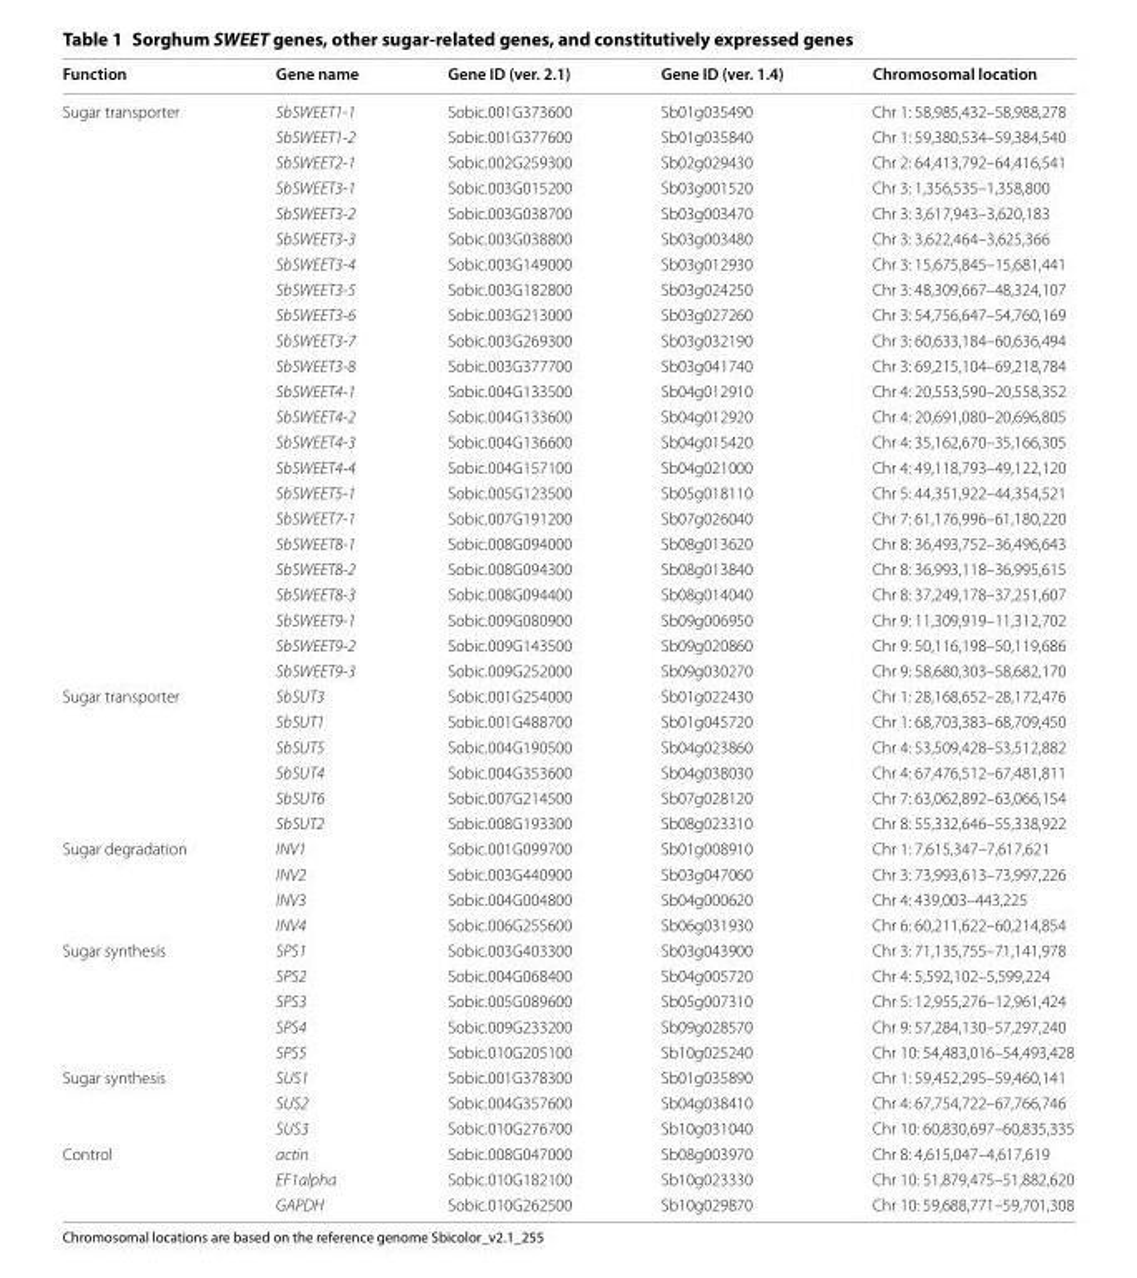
<table><thead><tr><td>Function</td><td>Gene name</td><td>Gene ID (ver. 2.1)</td><td>Gene ID (ver. 1.4)</td><td>Chromosomal location</td></tr></thead><tbody><tr><td rowspan="23">Sugar transporter</td><td>SbSWEET1-1</td><td>Sobic.001G373600</td><td>Sb01g035490</td><td>Chr 1: 58,985,432–58,988,278</td></tr><tr><td>SbSWEET1-2</td><td>Sobic.001G377600</td><td>Sb01g035840</td><td>Chr 1: 59,380,534–59,384,540</td></tr><tr><td>SbSWEET2-1</td><td>Sobic.002G259300</td><td>Sb02g029430</td><td>Chr 2: 64,413,792–64,416,541</td></tr><tr><td>SbSWEET3-1</td><td>Sobic.003G015200</td><td>Sb03g001520</td><td>Chr 3: 1,356,535–1,358,800</td></tr><tr><td>SbSWEET3-2</td><td>Sobic.003G038700</td><td>Sb03g003470</td><td>Chr 3: 3,617,943–3,620,183</td></tr><tr><td>SbSWEET3-3</td><td>Sobic.003G038800</td><td>Sb03g003480</td><td>Chr 3: 3,622,464–3,625,366</td></tr><tr><td>SbSWEET3-4</td><td>Sobic.003G149000</td><td>Sb03g012930</td><td>Chr 3: 15,675,845–15,681,441</td></tr><tr><td>SbSWEET3-5</td><td>Sobic.003G182800</td><td>Sb03g024250</td><td>Chr 3: 48,309,667–48,324,107</td></tr><tr><td>SbSWEET3-6</td><td>Sobic.003G213000</td><td>Sb03g027260</td><td>Chr 3: 54,756,647–54,760,169</td></tr><tr><td>SbSWEET3-7</td><td>Sobic.003G269300</td><td>Sb03g032190</td><td>Chr 3: 60,633,184–60,636,494</td></tr><tr><td>SbSWEET3-8</td><td>Sobic.003G377700</td><td>Sb03g041740</td><td>Chr 3: 69,215,104–69,218,784</td></tr><tr><td>SbSWEET4-1</td><td>Sobic.004G133500</td><td>Sb04g012910</td><td>Chr 4: 20,553,590–20,558,352</td></tr><tr><td>SbSWEET4-2</td><td>Sobic.004G133600</td><td>Sb04g012920</td><td>Chr 4: 20,691,080–20,696,805</td></tr><tr><td>SbSWEET4-3</td><td>Sobic.004G136600</td><td>Sb04g015420</td><td>Chr 4: 35,162,670–35,166,305</td></tr><tr><td>SbSWEET4-4</td><td>Sobic.004G157100</td><td>Sb04g021000</td><td>Chr 4: 49,118,793–49,122,120</td></tr><tr><td>SbSWEET5-1</td><td>Sobic.005G123500</td><td>Sb05g018110</td><td>Chr 5: 44,351,922–44,354,521</td></tr><tr><td>SbSWEET7-1</td><td>Sobic.007G191200</td><td>Sb07g026040</td><td>Chr 7: 61,176,996–61,180,220</td></tr><tr><td>SbSWEET8-1</td><td>Sobic.008G094000</td><td>Sb08g013620</td><td>Chr 8: 36,493,752–36,496,643</td></tr><tr><td>SbSWEET8-2</td><td>Sobic.008G094300</td><td>Sb08g013840</td><td>Chr 8: 36,993,118–36,995,615</td></tr><tr><td>SbSWEET8-3</td><td>Sobic.008G094400</td><td>Sb08g014040</td><td>Chr 8: 37,249,178–37,251,607</td></tr><tr><td>SbSWEET9-1</td><td>Sobic.009G080900</td><td>Sb09g006950</td><td>Chr 9: 11,309,919–11,312,702</td></tr><tr><td>SbSWEET9-2</td><td>Sobic.009G143500</td><td>Sb09g020860</td><td>Chr 9: 50,116,198–50,119,686</td></tr><tr><td>SbSWEET9-3</td><td>Sobic.009G252000</td><td>Sb09g030270</td><td>Chr 9: 58,680,303–58,682,170</td></tr><tr><td rowspan="6">Sugar transporter</td><td>SbSUT3</td><td>Sobic.001G254000</td><td>Sb01g022430</td><td>Chr 1: 28,168,652–28,172,476</td></tr><tr><td>SbSUT1</td><td>Sobic.001G488700</td><td>Sb01g045720</td><td>Chr 1: 68,703,383–68,709,450</td></tr><tr><td>SbSUT5</td><td>Sobic.004G190500</td><td>Sb04g023860</td><td>Chr 4: 53,509,428–53,512,882</td></tr><tr><td>SbSUT4</td><td>Sobic.004G353600</td><td>Sb04g038030</td><td>Chr 4: 67,476,512–67,481,811</td></tr><tr><td>SbSUT6</td><td>Sobic.007G214500</td><td>Sb07g028120</td><td>Chr 7: 63,062,892–63,066,154</td></tr><tr><td>SbSUT2</td><td>Sobic.008G193300</td><td>Sb08g023310</td><td>Chr 8: 55,332,646–55,338,922</td></tr><tr><td rowspan="4">Sugar degradation</td><td>INV1</td><td>Sobic.001G099700</td><td>Sb01g008910</td><td>Chr 1: 7,615,347–7,617,621</td></tr><tr><td>INV2</td><td>Sobic.003G440900</td><td>Sb03g047060</td><td>Chr 3: 73,993,613–73,997,226</td></tr><tr><td>INV3</td><td>Sobic.004G004800</td><td>Sb04g000620</td><td>Chr 4: 439,003–443,225</td></tr><tr><td>INV4</td><td>Sobic.006G255600</td><td>Sb06g031930</td><td>Chr 6: 60,211,622–60,214,854</td></tr><tr><td rowspan="5">Sugar synthesis</td><td>SPS1</td><td>Sobic.003G403300</td><td>Sb03g043900</td><td>Chr 3: 71,135,755–71,141,978</td></tr><tr><td>SPS2</td><td>Sobic.004G068400</td><td>Sb04g005720</td><td>Chr 4: 5,592,102–5,599,224</td></tr><tr><td>SPS3</td><td>Sobic.005G089600</td><td>Sb05g007310</td><td>Chr 5: 12,955,276–12,961,424</td></tr><tr><td>SPS4</td><td>Sobic.009G233200</td><td>Sb09g028570</td><td>Chr 9: 57,284,130–57,297,240</td></tr><tr><td>SPS5</td><td>Sobic.010G205100</td><td>Sb10g025240</td><td>Chr 10: 54,483,016–54,493,428</td></tr><tr><td rowspan="3">Sugar synthesis</td><td>SUS1</td><td>Sobic.001G378300</td><td>Sb01g035890</td><td>Chr 1: 59,452,295–59,460,141</td></tr><tr><td>SUS2</td><td>Sobic.004G357600</td><td>Sb04g038410</td><td>Chr 4: 67,754,722–67,766,746</td></tr><tr><td>SUS3</td><td>Sobic.010G276700</td><td>Sb10g031040</td><td>Chr 10: 60,830,697–60,835,335</td></tr><tr><td rowspan="3">Control</td><td>actin</td><td>Sobic.008G047000</td><td>Sb08g003970</td><td>Chr 8: 4,615,047–4,617,619</td></tr><tr><td>EF1alpha</td><td>Sobic.010G182100</td><td>Sb10g023330</td><td>Chr 10: 51,879,475–51,882,620</td></tr><tr><td>GAPDH</td><td>Sobic.010G262500</td><td>Sb10g029870</td><td>Chr 10: 59,688,771–59,701,308</td></tr></tbody></table>